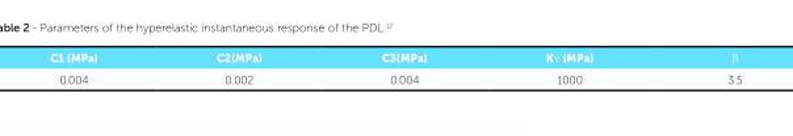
<table><thead><tr><td>C1 (MPa)</td><td>C2(MPa)</td><td>C3(MPa)</td><td>Kν (MPa)</td><td>β</td></tr></thead><tbody><tr><td>0.004</td><td>0.002</td><td>0.004</td><td>1000</td><td>3.5</td></tr></tbody></table>